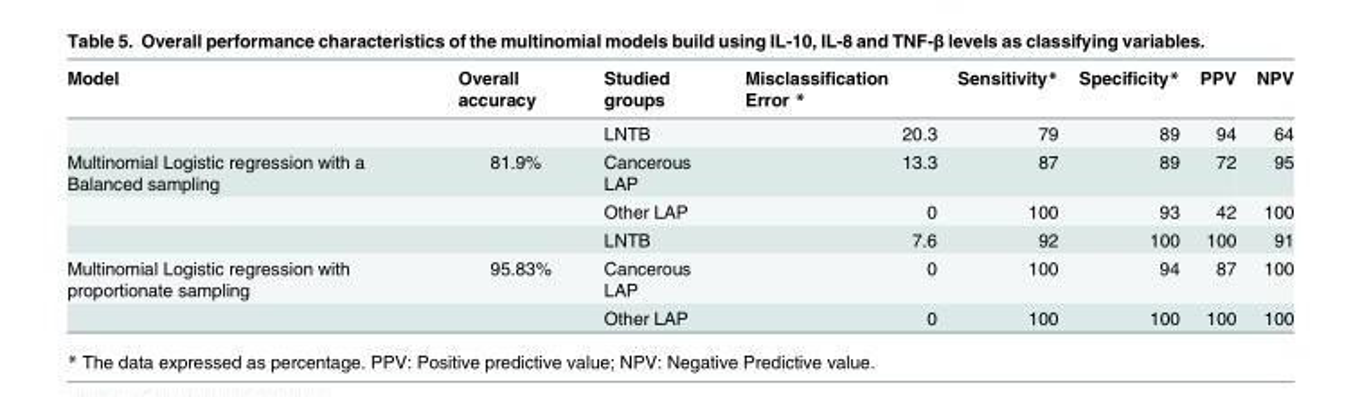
<table><thead><tr><td>Model</td><td>Overall accuracy</td><td>Studied groups</td><td>Misclassification Error *</td><td>Sensitivity*</td><td>Specificity*</td><td>PPV</td><td>NPV</td></tr></thead><tbody><tr><td></td><td></td><td>LNTB</td><td>20.3</td><td>79</td><td>89</td><td>94</td><td>64</td></tr><tr><td rowspan="3">Multinomial Logistic regression with a Balanced sampling</td><td>81.9%</td><td>Cancerous LAP</td><td>13.3</td><td>87</td><td>89</td><td>72</td><td>95</td></tr><tr><td></td><td>Other LAP</td><td>0</td><td>100</td><td>93</td><td>42</td><td>100</td></tr><tr><td></td><td>LNTB</td><td>7.6</td><td>92</td><td>100</td><td>100</td><td>91</td></tr><tr><td rowspan="2">Multinomial Logistic regression with proportionate sampling</td><td>95.83%</td><td>Cancerous LAP</td><td>0</td><td>100</td><td>94</td><td>87</td><td>100</td></tr><tr><td></td><td>Other LAP</td><td>0</td><td>100</td><td>100</td><td>100</td><td>100</td></tr></tbody></table>